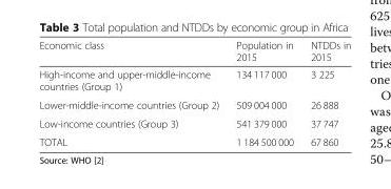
<table><thead><tr><td>Economic class</td><td>Population in 2015</td><td>NTDDs in 2015</td></tr></thead><tbody><tr><td>High-income and upper-middle-income countries (Group 1)</td><td>134 117 000</td><td>3 225</td></tr><tr><td>Lower-middle-income countries (Group 2)</td><td>509 004 000</td><td>26 888</td></tr><tr><td>Low-income countries (Group 3)</td><td>541 379 000</td><td>37 747</td></tr><tr><td>TOTAL</td><td>1 184 500 000</td><td>67 860</td></tr></tbody></table>